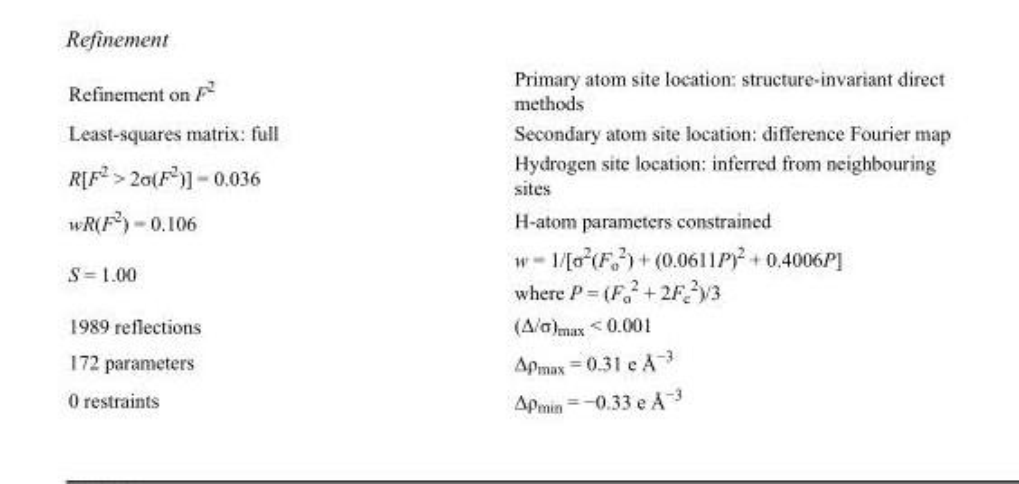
<table><tbody><tr><td>Refinement on F<sup>2</sup></td><td>Primary atom site location: structure-invariant direct methods</td></tr><tr><td>Least-squares matrix: full</td><td>Secondary atom site location: difference Fourier map</td></tr><tr><td>R[F<sup>2</sup> &gt; 2σ(F<sup>2</sup>)] = 0.036</td><td>Hydrogen site location: inferred from neighbouring sites</td></tr><tr><td>wR(F<sup>2</sup>) = 0.106</td><td>H-atom parameters constrained</td></tr><tr><td>S = 1.00</td><td>w = 1/[σ<sup>2</sup>(F<sub>o</sub> <sup>2</sup>) + (0.0611P)<sup>2</sup> + 0.4006P] where P = (F<sub>o</sub> <sup>2</sup> + 2F<sub>c</sub> <sup>2</sup>)/3</td></tr><tr><td>1989 reflections</td><td>(Δ/σ)<sub>max</sub> &lt; 0.001</td></tr><tr><td>172 parameters</td><td>Δρ<sub>max</sub> = 0.31 e Å<sup>−3</sup></td></tr><tr><td>0 restraints</td><td>Δρ<sub>min</sub> = −0.33 e Å<sup>−3</sup></td></tr></tbody></table>